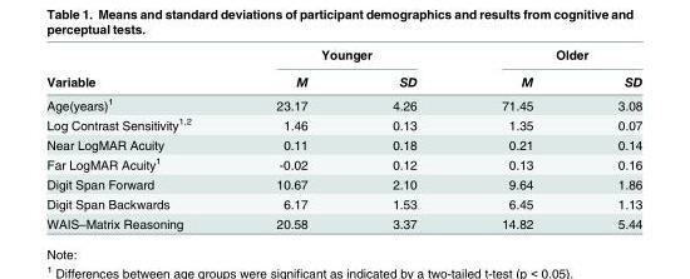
<table><thead><tr><td rowspan="2">Variable</td><td colspan="2">Younger</td><td colspan="2">Older</td></tr><tr><td>M</td><td>SD</td><td>M</td><td>SD</td></tr></thead><tbody><tr><td>Age(years)<sup>1</sup></td><td>23.17</td><td>4.26</td><td>71.45</td><td>3.08</td></tr><tr><td>Log Contrast Sensitivity<sup>1,2</sup></td><td>1.46</td><td>0.13</td><td>1.35</td><td>0.07</td></tr><tr><td>Near LogMAR Acuity</td><td>0.11</td><td>0.18</td><td>0.21</td><td>0.14</td></tr><tr><td>Far LogMAR Acuity<sup>1</sup></td><td>-0.02</td><td>0.12</td><td>0.13</td><td>0.16</td></tr><tr><td>Digit Span Forward</td><td>10.67</td><td>2.10</td><td>9.64</td><td>1.86</td></tr><tr><td>Digit Span Backwards</td><td>6.17</td><td>1.53</td><td>6.45</td><td>1.13</td></tr><tr><td>WAIS–Matrix Reasoning</td><td>20.58</td><td>3.37</td><td>14.82</td><td>5.44</td></tr></tbody></table>